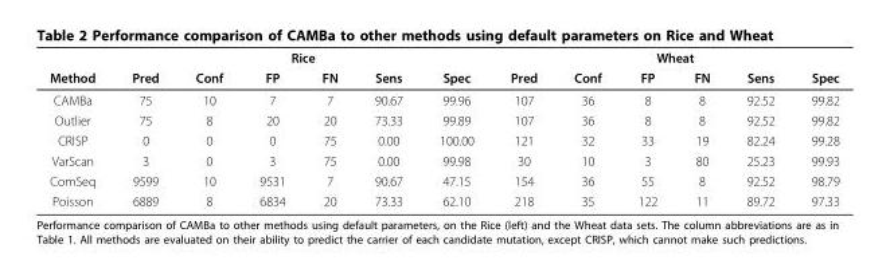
<table><thead><tr><td rowspan="2">Method</td><td colspan="6">Rice</td><td colspan="6">Wheat</td></tr><tr><td>Pred</td><td>Conf</td><td>FP</td><td>FN</td><td>Sens</td><td>Spec</td><td>Pred</td><td>Conf</td><td>FP</td><td>FN</td><td>Sens</td><td>Spec</td></tr></thead><tbody><tr><td>CAMBa</td><td>75</td><td>10</td><td>7</td><td>7</td><td>90.67</td><td>99.96</td><td>107</td><td>36</td><td>8</td><td>8</td><td>92.52</td><td>99.82</td></tr><tr><td>Outlier</td><td>75</td><td>8</td><td>20</td><td>20</td><td>73.33</td><td>99.89</td><td>107</td><td>36</td><td>8</td><td>8</td><td>92.52</td><td>99.82</td></tr><tr><td>CRISP</td><td>0</td><td>0</td><td>0</td><td>75</td><td>0.00</td><td>100.00</td><td>121</td><td>32</td><td>33</td><td>19</td><td>82.24</td><td>99.28</td></tr><tr><td>VarScan</td><td>3</td><td>0</td><td>3</td><td>75</td><td>0.00</td><td>99.98</td><td>30</td><td>10</td><td>3</td><td>80</td><td>25.23</td><td>99.93</td></tr><tr><td>ComSeq</td><td>9599</td><td>10</td><td>9531</td><td>7</td><td>90.67</td><td>47.15</td><td>154</td><td>36</td><td>55</td><td>8</td><td>92.52</td><td>98.79</td></tr><tr><td>Poisson</td><td>6889</td><td>8</td><td>6834</td><td>20</td><td>73.33</td><td>62.10</td><td>218</td><td>35</td><td>122</td><td>11</td><td>89.72</td><td>97.33</td></tr></tbody></table>